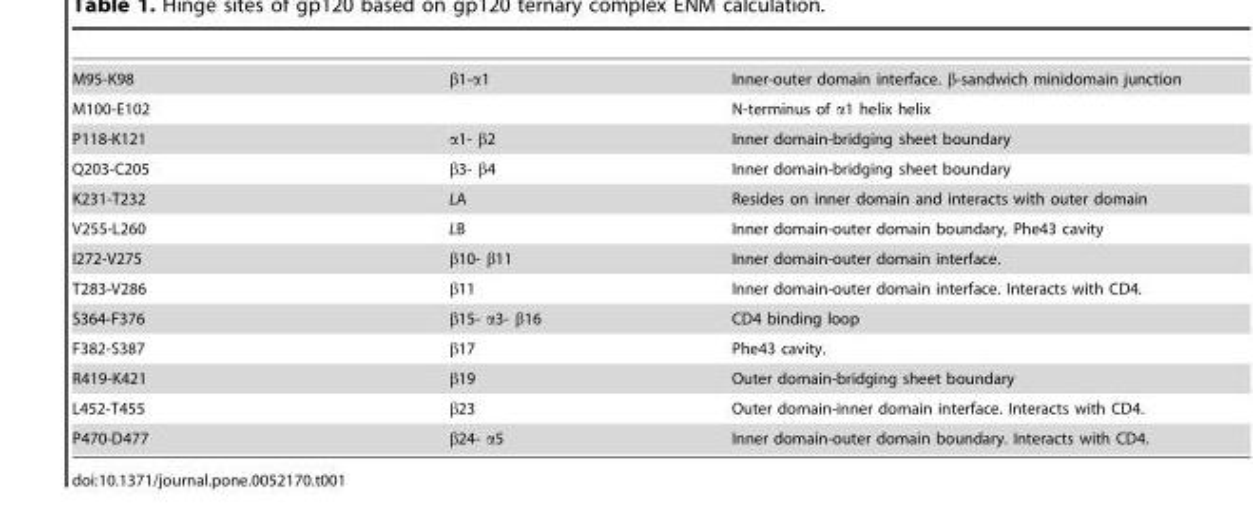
<table><tbody><tr><td>M95-K98</td><td>β1-α1</td><td>Inner-outer domain interface. β-sandwich minidomain junction</td></tr><tr><td>M100-E102</td><td></td><td>N-terminus of α1 helix helix</td></tr><tr><td>P118-K121</td><td>α1- β2</td><td>Inner domain-bridging sheet boundary</td></tr><tr><td>Q203-C205</td><td>β3- β4</td><td>Inner domain-bridging sheet boundary</td></tr><tr><td>K231-T232</td><td>LA</td><td>Resides on inner domain and interacts with outer domain</td></tr><tr><td>V255-L260</td><td>LB</td><td>Inner domain-outer domain boundary, Phe43 cavity</td></tr><tr><td>I272-V275</td><td>β10- β11</td><td>Inner domain-outer domain interface.</td></tr><tr><td>T283-V286</td><td>β11</td><td>Inner domain-outer domain interface. Interacts with CD4.</td></tr><tr><td>S364-F376</td><td>β15- α3- β16</td><td>CD4 binding loop</td></tr><tr><td>F382-S387</td><td>β17</td><td>Phe43 cavity.</td></tr><tr><td>R419-K421</td><td>β19</td><td>Outer domain-bridging sheet boundary</td></tr><tr><td>L452-T455</td><td>β23</td><td>Outer domain-inner domain interface. Interacts with CD4.</td></tr><tr><td>P470-D477</td><td>β24- α5</td><td>Inner domain-outer domain boundary. Interacts with CD4.</td></tr></tbody></table>